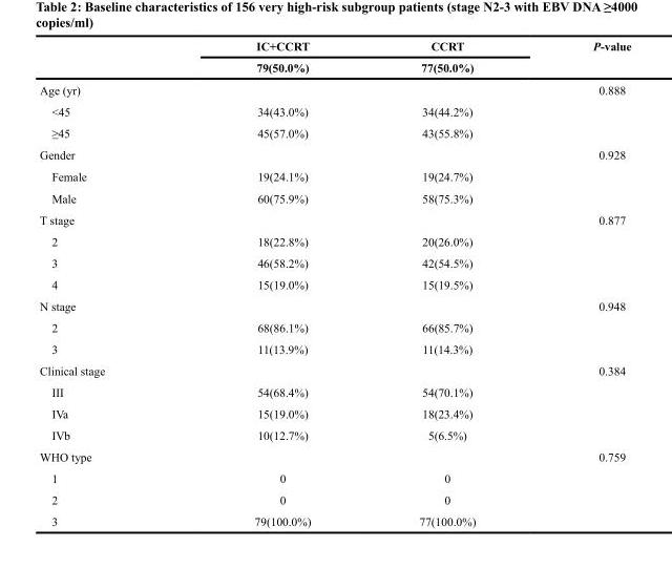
<table><thead><tr><td rowspan="2"></td><td rowspan="2">IC+CCRT 79(50.0%)</td><td rowspan="2">CCRT 77(50.0%)</td><td rowspan="2">P-value</td></tr><tr></tr></thead><tbody><tr><td>Age (yr)</td><td></td><td></td><td>0.888</td></tr><tr><td>&lt;45</td><td>34(43.0%)</td><td>34(44.2%)</td><td></td></tr><tr><td>≥45</td><td>45(57.0%)</td><td>43(55.8%)</td><td></td></tr><tr><td>Gender</td><td></td><td></td><td>0.928</td></tr><tr><td>Female</td><td>19(24.1%)</td><td>19(24.7%)</td><td></td></tr><tr><td>Male</td><td>60(75.9%)</td><td>58(75.3%)</td><td></td></tr><tr><td>T stage</td><td></td><td></td><td>0.877</td></tr><tr><td>2</td><td>18(22.8%)</td><td>20(26.0%)</td><td></td></tr><tr><td>3</td><td>46(58.2%)</td><td>42(54.5%)</td><td></td></tr><tr><td>4</td><td>15(19.0%)</td><td>15(19.5%)</td><td></td></tr><tr><td>N stage</td><td></td><td></td><td>0.948</td></tr><tr><td>2</td><td>68(86.1%)</td><td>66(85.7%)</td><td></td></tr><tr><td>3</td><td>11(13.9%)</td><td>11(14.3%)</td><td></td></tr><tr><td>Clinical stage</td><td></td><td></td><td>0.384</td></tr><tr><td>III</td><td>54(68.4%)</td><td>54(70.1%)</td><td></td></tr><tr><td>IVa</td><td>15(19.0%)</td><td>18(23.4%)</td><td></td></tr><tr><td>IVb</td><td>10(12.7%)</td><td>5(6.5%)</td><td></td></tr><tr><td>WHO type</td><td></td><td></td><td>0.759</td></tr><tr><td>1</td><td>0</td><td>0</td><td></td></tr><tr><td>2</td><td>0</td><td>0</td><td></td></tr><tr><td>3</td><td>79(100.0%)</td><td>77(100.0%)</td><td></td></tr></tbody></table>